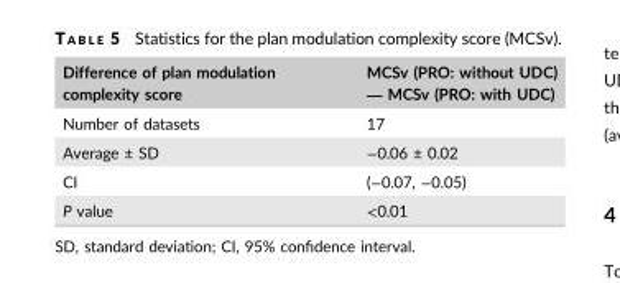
<table><thead><tr><td>Difference of plan modulation complexity score</td><td>MCSv (PRO: without UDC) — MCSv (PRO: with UDC)</td></tr></thead><tbody><tr><td>Number of datasets</td><td>17</td></tr><tr><td>Average ± SD</td><td>−0.06 ± 0.02</td></tr><tr><td>CI</td><td>(−0.07, −0.05)</td></tr><tr><td>P value</td><td>&lt;0.01</td></tr></tbody></table>